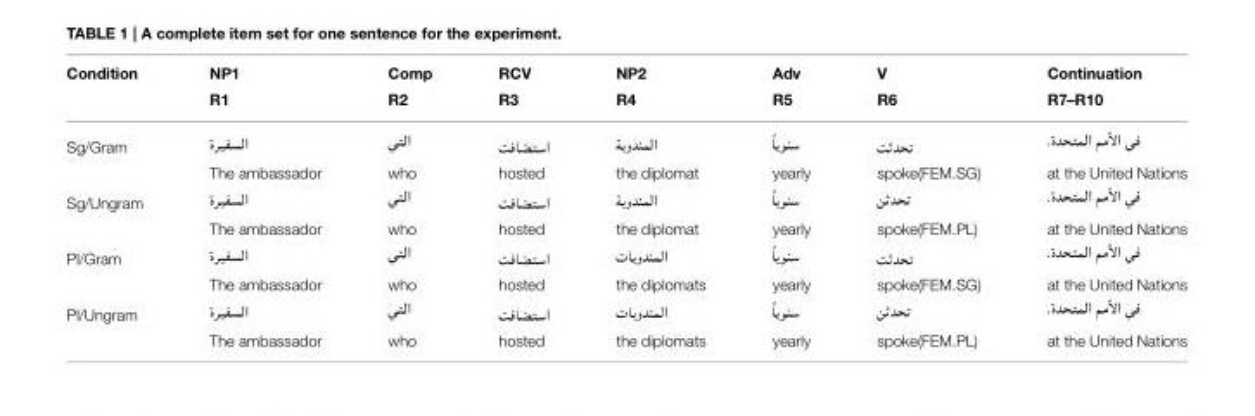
<table><thead><tr><td rowspan="2">Condition</td><td rowspan="2">NP1 R1</td><td rowspan="2">Comp R2</td><td rowspan="2">RCV R3</td><td rowspan="2">NP2 R4</td><td rowspan="2">Adv R5</td><td rowspan="2">V R6</td><td rowspan="2">Continuation R7–R10</td></tr><tr></tr></thead><tbody><tr><td colspan="8">Sg/Gram</td></tr><tr><td></td><td>The ambassador</td><td>who</td><td>hosted</td><td>the diplomat</td><td>yearly</td><td>spoke(FEM.SG)</td><td>at the United Nations</td></tr><tr><td colspan="8">Sg/Ungram</td></tr><tr><td></td><td>The ambassador</td><td>who</td><td>hosted</td><td>the diplomat</td><td>yearly</td><td>spoke(FEM.PL)</td><td>at the United Nations</td></tr><tr><td colspan="8">Pl/Gram</td></tr><tr><td></td><td>The ambassador</td><td>who</td><td>hosted</td><td>the diplomats</td><td>yearly</td><td>spoke(FEM.SG)</td><td>at the United Nations</td></tr><tr><td colspan="8">Pl/Ungram</td></tr><tr><td></td><td>The ambassador</td><td>who</td><td>hosted</td><td>the diplomats</td><td>yearly</td><td>spoke(FEM.PL)</td><td>at the United Nations</td></tr></tbody></table>